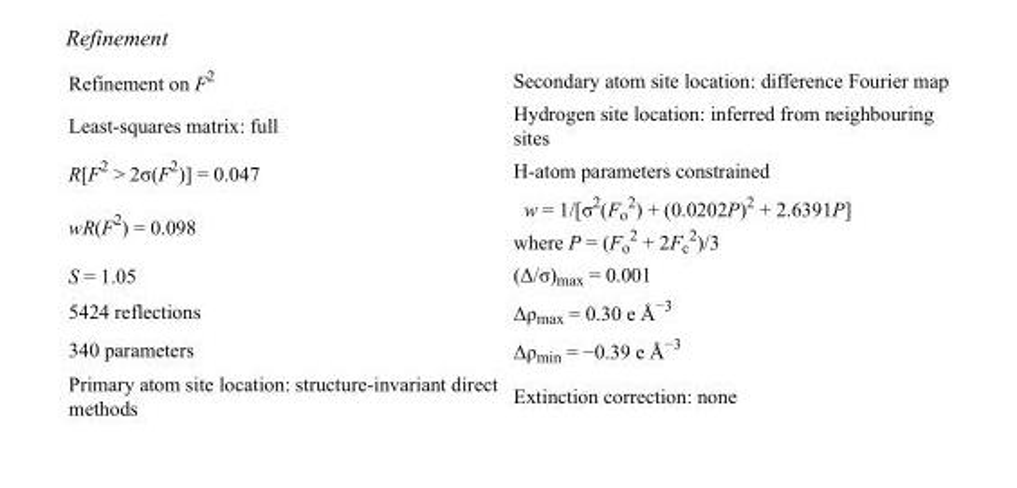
<table><tbody><tr><td>Refinement on F<sup>2</sup></td><td>Secondary atom site location: difference Fourier map</td></tr><tr><td>Least-squares matrix: full</td><td>Hydrogen site location: inferred from neighbouring sites</td></tr><tr><td>R[F<sup>2</sup> &gt; 2σ(F<sup>2</sup>)] = 0.047</td><td>H-atom parameters constrained</td></tr><tr><td>wR(F<sup>2</sup>) = 0.098</td><td>w = 1/[σ<sup>2</sup>(F<sub>o</sub> <sup>2</sup>) + (0.0202P)<sup>2</sup> + 2.6391P] where P = (F<sub>o</sub> <sup>2</sup> + 2F<sub>c</sub> <sup>2</sup>)/3</td></tr><tr><td>S = 1.05</td><td>(Δ/σ)<sub>max</sub> = 0.001</td></tr><tr><td>5424 reflections</td><td>Δρ<sub>max</sub> = 0.30 e Å<sup>−3</sup></td></tr><tr><td>340 parameters</td><td>Δρ<sub>min</sub> = −0.39 e Å<sup>−3</sup></td></tr><tr><td>Primary atom site location: structure-invariant direct methods</td><td>Extinction correction: none</td></tr></tbody></table>